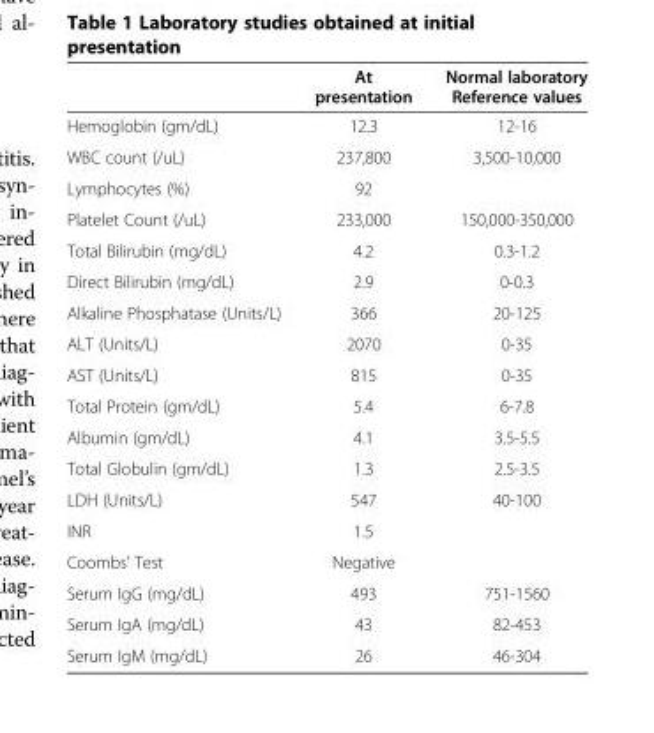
<table><thead><tr><td></td><td>At presentation</td><td>Normal laboratory Reference values</td></tr></thead><tbody><tr><td>Hemoglobin (gm/dL)</td><td>12.3</td><td>12-16</td></tr><tr><td>WBC count (/uL)</td><td>237,800</td><td>3,500-10,000</td></tr><tr><td>Lymphocytes (%)</td><td>92</td><td></td></tr><tr><td>Platelet Count (/uL)</td><td>233,000</td><td>150,000-350,000</td></tr><tr><td>Total Bilirubin (mg/dL)</td><td>4.2</td><td>0.3-1.2</td></tr><tr><td>Direct Bilirubin (mg/dL)</td><td>2.9</td><td>0-0.3</td></tr><tr><td>Alkaline Phosphatase (Units/L)</td><td>366</td><td>20-125</td></tr><tr><td>ALT (Units/L)</td><td>2070</td><td>0-35</td></tr><tr><td>AST (Units/L)</td><td>815</td><td>0-35</td></tr><tr><td>Total Protein (gm/dL)</td><td>5.4</td><td>6-7.8</td></tr><tr><td>Albumin (gm/dL)</td><td>4.1</td><td>3.5-5.5</td></tr><tr><td>Total Globulin (gm/dL)</td><td>1.3</td><td>2.5-3.5</td></tr><tr><td>LDH (Units/L)</td><td>547</td><td>40-100</td></tr><tr><td>INR</td><td>1.5</td><td></td></tr><tr><td>Coombs’ Test</td><td>Negative</td><td></td></tr><tr><td>Serum IgG (mg/dL)</td><td>493</td><td>751-1560</td></tr><tr><td>Serum IgA (mg/dL)</td><td>43</td><td>82-453</td></tr><tr><td>Serum IgM (mg/dL)</td><td>26</td><td>46-304</td></tr></tbody></table>